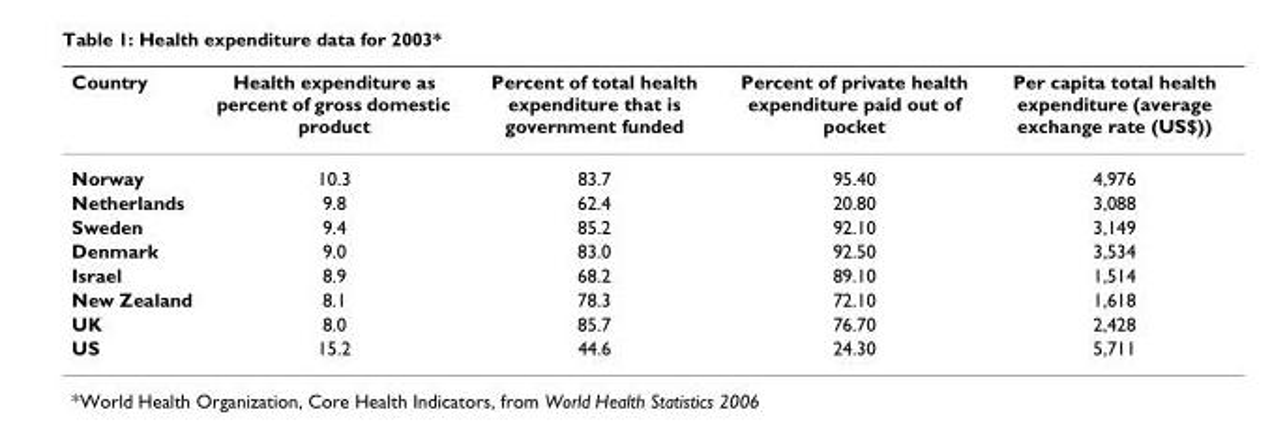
<table><thead><tr><td>Country</td><td>Health expenditure as percent of gross domestic product</td><td>Percent of total health expenditure that is government funded</td><td>Percent of private health expenditure paid out of pocket</td><td>Per capita total health expenditure (average exchange rate (US$))</td></tr></thead><tbody><tr><td>Norway</td><td>10.3</td><td>83.7</td><td>95.40</td><td>4,976</td></tr><tr><td>Netherlands</td><td>9.8</td><td>62.4</td><td>20.80</td><td>3,088</td></tr><tr><td>Sweden</td><td>9.4</td><td>85.2</td><td>92.10</td><td>3,149</td></tr><tr><td>Denmark</td><td>9.0</td><td>83.0</td><td>92.50</td><td>3,534</td></tr><tr><td>Israel</td><td>8.9</td><td>68.2</td><td>89.10</td><td>1,514</td></tr><tr><td>New Zealand</td><td>8.1</td><td>78.3</td><td>72.10</td><td>1,618</td></tr><tr><td>UK</td><td>8.0</td><td>85.7</td><td>76.70</td><td>2,428</td></tr><tr><td>US</td><td>15.2</td><td>44.6</td><td>24.30</td><td>5,711</td></tr></tbody></table>